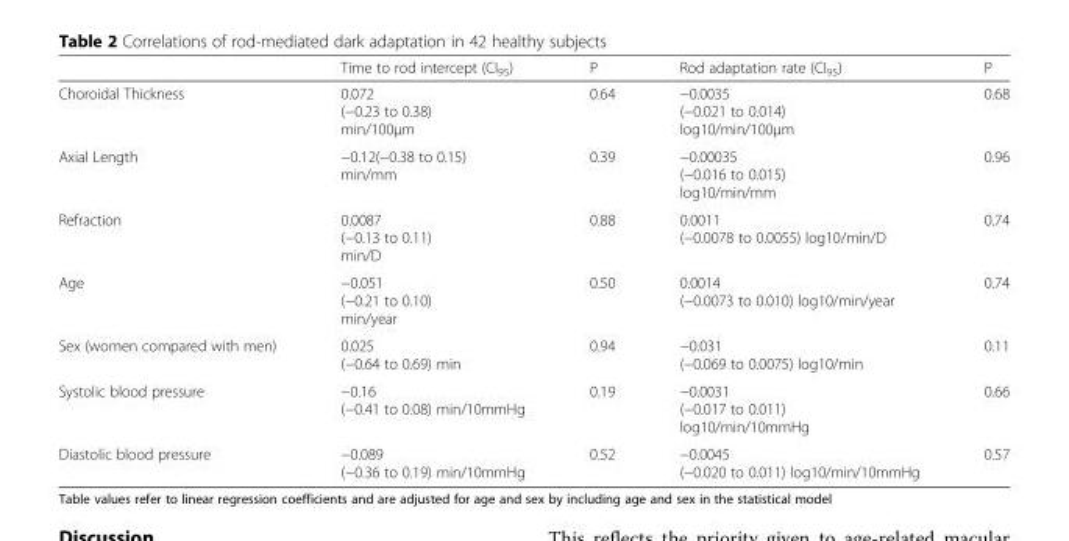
<table><thead><tr><td></td><td>Time to rod intercept (CI<sub>95</sub>)</td><td>P</td><td>Rod adaptation rate (CI<sub>95</sub>)</td><td>P</td></tr></thead><tbody><tr><td>Choroidal Thickness</td><td>0.072 (−0.23 to 0.38) min/100μm</td><td>0.64</td><td>−0.0035 (−0.021 to 0.014) log10/min/100μm</td><td>0.68</td></tr><tr><td>Axial Length</td><td>−0.12(−0.38 to 0.15) min/mm</td><td>0.39</td><td>−0.00035 (−0.016 to 0.015) log10/min/mm</td><td>0.96</td></tr><tr><td>Refraction</td><td>0.0087 (−0.13 to 0.11) min/D</td><td>0.88</td><td>0.0011 (−0.0078 to 0.0055) log10/min/D</td><td>0.74</td></tr><tr><td>Age</td><td>−0.051 (−0.21 to 0.10) min/year</td><td>0.50</td><td>0.0014 (−0.0073 to 0.010) log10/min/year</td><td>0.74</td></tr><tr><td>Sex (women compared with men)</td><td>0.025 (−0.64 to 0.69) min</td><td>0.94</td><td>−0.031 (−0.069 to 0.0075) log10/min</td><td>0.11</td></tr><tr><td>Systolic blood pressure</td><td>−0.16 (−0.41 to 0.08) min/10mmHg</td><td>0.19</td><td>−0.0031 (−0.017 to 0.011) log10/min/10mmHg</td><td>0.66</td></tr><tr><td>Diastolic blood pressure</td><td>−0.089 (−0.36 to 0.19) min/10mmHg</td><td>0.52</td><td>−0.0045 (−0.020 to 0.011) log10/min/10mmHg</td><td>0.57</td></tr></tbody></table>